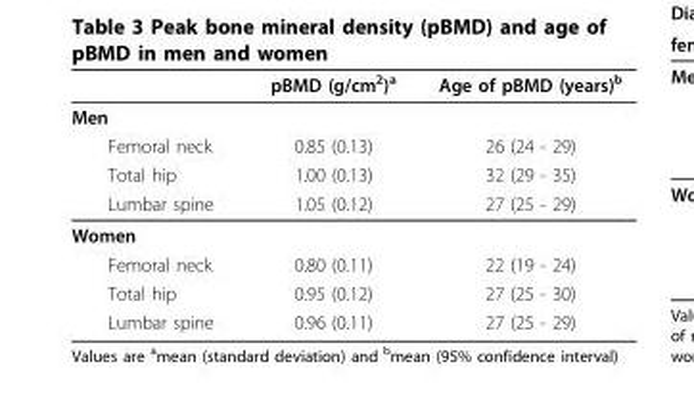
<table><thead><tr><td></td><td>pBMD (g/cm<sup>2</sup>)<sup>a</sup></td><td>Age of pBMD (years)<sup>b</sup></td></tr></thead><tbody><tr><td colspan="3">Men</td></tr><tr><td>Femoral neck</td><td>0.85 (0.13)</td><td>26 (24 - 29)</td></tr><tr><td>Total hip</td><td>1.00 (0.13)</td><td>32 (29 - 35)</td></tr><tr><td>Lumbar spine</td><td>1.05 (0.12)</td><td>27 (25 - 29)</td></tr><tr><td colspan="3">Women</td></tr><tr><td>Femoral neck</td><td>0.80 (0.11)</td><td>22 (19 - 24)</td></tr><tr><td>Total hip</td><td>0.95 (0.12)</td><td>27 (25 - 30)</td></tr><tr><td>Lumbar spine</td><td>0.96 (0.11)</td><td>27 (25 - 29)</td></tr></tbody></table>